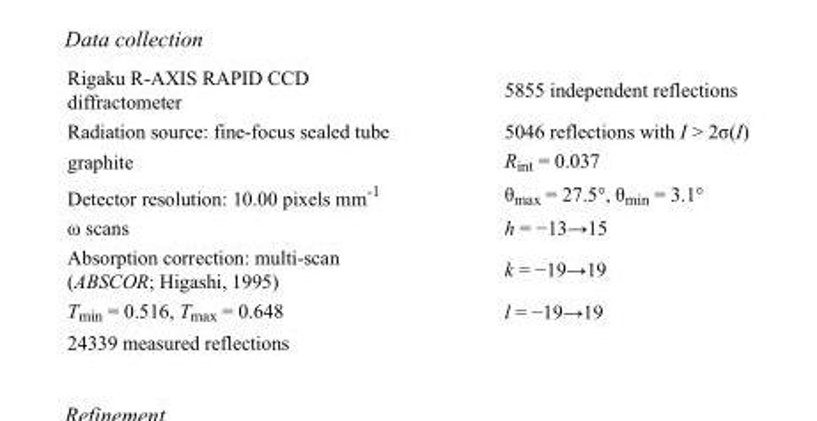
<table><tbody><tr><td>Rigaku R-AXIS RAPID CCD diffractometer</td><td>5855 independent reflections</td></tr><tr><td>Radiation source: fine-focus sealed tube</td><td>5046 reflections with I &gt; 2σ(I)</td></tr><tr><td>graphite</td><td>R<sub>int</sub> = 0.037</td></tr><tr><td>Detector resolution: 10.00 pixels mm<sup>-1</sup></td><td>θ<sub>max</sub> = 27.5°, θ<sub>min</sub> = 3.1°</td></tr><tr><td>ω scans</td><td>h = −13→15</td></tr><tr><td>Absorption correction: multi-scan (ABSCOR; Higashi, 1995)</td><td>k = −19→19</td></tr><tr><td>T<sub>min</sub> = 0.516, T<sub>max</sub> = 0.648</td><td>l = −19→19</td></tr><tr><td>24339 measured reflections</td><td></td></tr></tbody></table>